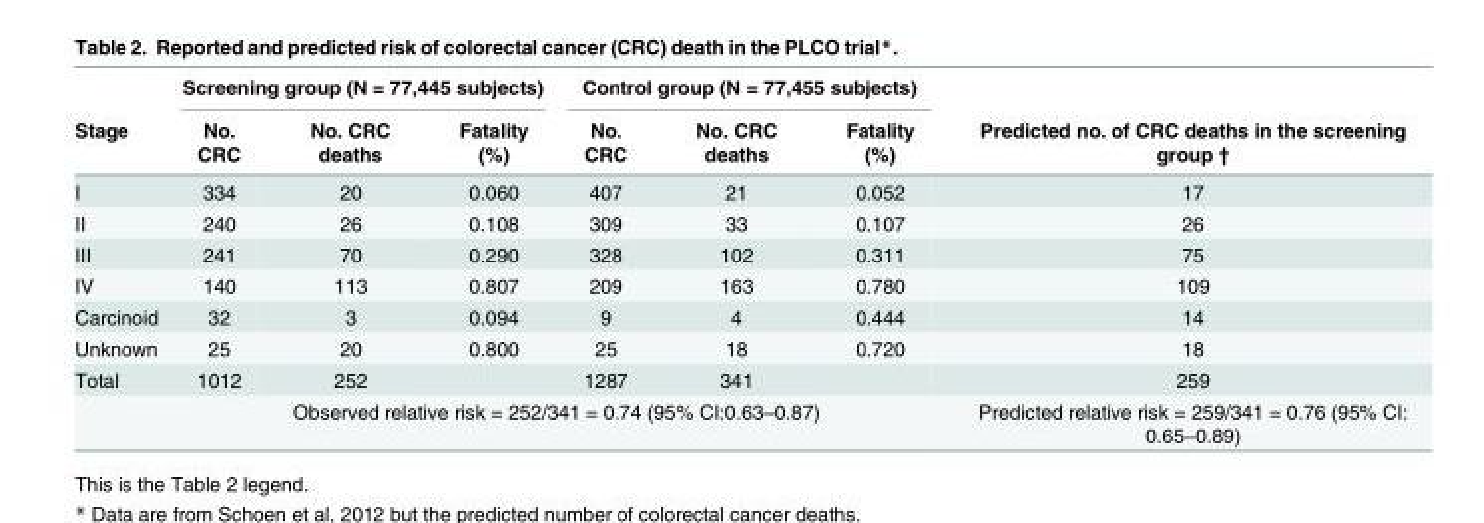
<table><thead><tr><td rowspan="2">Stage</td><td colspan="3">Screening group (N = 77,445 subjects)</td><td colspan="3">Control group (N = 77,455 subjects)</td><td rowspan="2">Predicted no. of CRC deaths in the screening group †</td></tr><tr><td>No. CRC</td><td>No. CRC deaths</td><td>Fatality (%)</td><td>No. CRC</td><td>No. CRC deaths</td><td>Fatality (%)</td></tr></thead><tbody><tr><td>I</td><td>334</td><td>20</td><td>0.060</td><td>407</td><td>21</td><td>0.052</td><td>17</td></tr><tr><td>II</td><td>240</td><td>26</td><td>0.108</td><td>309</td><td>33</td><td>0.107</td><td>26</td></tr><tr><td>III</td><td>241</td><td>70</td><td>0.290</td><td>328</td><td>102</td><td>0.311</td><td>75</td></tr><tr><td>IV</td><td>140</td><td>113</td><td>0.807</td><td>209</td><td>163</td><td>0.780</td><td>109</td></tr><tr><td>Carcinoid</td><td>32</td><td>3</td><td>0.094</td><td>9</td><td>4</td><td>0.444</td><td>14</td></tr><tr><td>Unknown</td><td>25</td><td>20</td><td>0.800</td><td>25</td><td>18</td><td>0.720</td><td>18</td></tr><tr><td rowspan="2">Total</td><td>1012</td><td>252</td><td></td><td>1287</td><td>341</td><td></td><td>259</td></tr><tr><td colspan="6">Observed relative risk = 252/341 = 0.74 (95% CI:0.63–0.87)</td><td>Predicted relative risk = 259/341 = 0.76 (95% CI: 0.65–0.89)</td></tr></tbody></table>